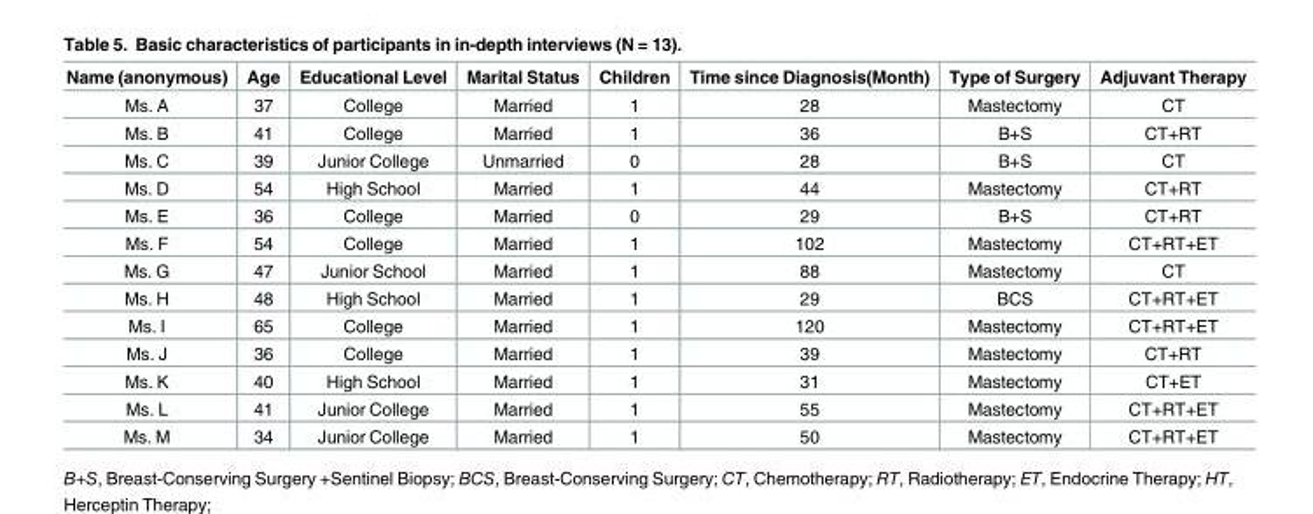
<table><thead><tr><td>Name (anonymous)</td><td>Age</td><td>Educational Level</td><td>Marital Status</td><td>Children</td><td>Time since Diagnosis(Month)</td><td>Type of Surgery</td><td>Adjuvant Therapy</td></tr></thead><tbody><tr><td>Ms. A</td><td>37</td><td>College</td><td>Married</td><td>1</td><td>28</td><td>Mastectomy</td><td>CT</td></tr><tr><td>Ms. B</td><td>41</td><td>College</td><td>Married</td><td>1</td><td>36</td><td>B+S</td><td>CT+RT</td></tr><tr><td>Ms. C</td><td>39</td><td>Junior College</td><td>Unmarried</td><td>0</td><td>28</td><td>B+S</td><td>CT</td></tr><tr><td>Ms. D</td><td>54</td><td>High School</td><td>Married</td><td>1</td><td>44</td><td>Mastectomy</td><td>CT+RT</td></tr><tr><td>Ms. E</td><td>36</td><td>College</td><td>Married</td><td>0</td><td>29</td><td>B+S</td><td>CT+RT</td></tr><tr><td>Ms. F</td><td>54</td><td>College</td><td>Married</td><td>1</td><td>102</td><td>Mastectomy</td><td>CT+RT+ET</td></tr><tr><td>Ms. G</td><td>47</td><td>Junior School</td><td>Married</td><td>1</td><td>88</td><td>Mastectomy</td><td>CT</td></tr><tr><td>Ms. H</td><td>48</td><td>High School</td><td>Married</td><td>1</td><td>29</td><td>BCS</td><td>CT+RT+ET</td></tr><tr><td>Ms. I</td><td>65</td><td>College</td><td>Married</td><td>1</td><td>120</td><td>Mastectomy</td><td>CT+RT+ET</td></tr><tr><td>Ms. J</td><td>36</td><td>College</td><td>Married</td><td>1</td><td>39</td><td>Mastectomy</td><td>CT+RT</td></tr><tr><td>Ms. K</td><td>40</td><td>High School</td><td>Married</td><td>1</td><td>31</td><td>Mastectomy</td><td>CT+ET</td></tr><tr><td>Ms. L</td><td>41</td><td>Junior College</td><td>Married</td><td>1</td><td>55</td><td>Mastectomy</td><td>CT+RT+ET</td></tr><tr><td>Ms. M</td><td>34</td><td>Junior College</td><td>Married</td><td>1</td><td>50</td><td>Mastectomy</td><td>CT+RT+ET</td></tr></tbody></table>